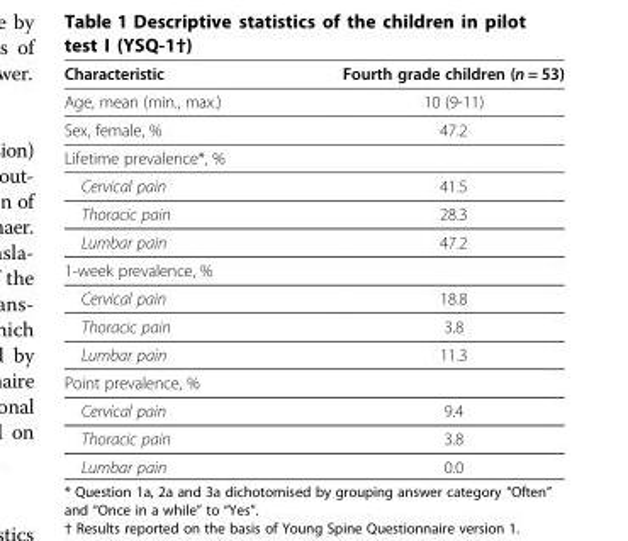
<table><thead><tr><td>Characteristic</td><td>Fourth grade children (n = 53)</td></tr></thead><tbody><tr><td>Age, mean (min., max.)</td><td>10 (9-11)</td></tr><tr><td>Sex, female, %</td><td>47.2</td></tr><tr><td colspan="2">Lifetime prevalence*, %</td></tr><tr><td>Cervical pain</td><td>41.5</td></tr><tr><td>Thoracic pain</td><td>28.3</td></tr><tr><td>Lumbar pain</td><td>47.2</td></tr><tr><td colspan="2">1-week prevalence, %</td></tr><tr><td>Cervical pain</td><td>18.8</td></tr><tr><td>Thoracic pain</td><td>3.8</td></tr><tr><td>Lumbar pain</td><td>11.3</td></tr><tr><td colspan="2">Point prevalence, %</td></tr><tr><td>Cervical pain</td><td>9.4</td></tr><tr><td>Thoracic pain</td><td>3.8</td></tr><tr><td>Lumbar pain</td><td>0.0</td></tr></tbody></table>